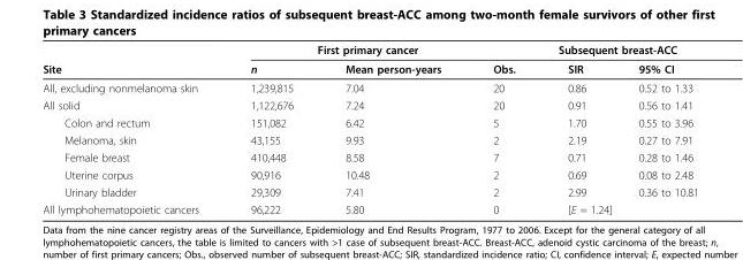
<table><thead><tr><td rowspan="2">Site</td><td colspan="2">First primary cancer</td><td colspan="3">Subsequent breast-ACC</td></tr><tr><td>n</td><td>Mean person-years</td><td>Obs.</td><td>SIR</td><td>95% CI</td></tr></thead><tbody><tr><td>All, excluding nonmelanoma skin</td><td>1,239,815</td><td>7.04</td><td>20</td><td>0.86</td><td>0.52 to 1.33</td></tr><tr><td>All solid</td><td>1,122,676</td><td>7.24</td><td>20</td><td>0.91</td><td>0.56 to 1.41</td></tr><tr><td>Colon and rectum</td><td>151,082</td><td>6.42</td><td>5</td><td>1.70</td><td>0.55 to 3.96</td></tr><tr><td>Melanoma, skin</td><td>43,155</td><td>9.93</td><td>2</td><td>2.19</td><td>0.27 to 7.91</td></tr><tr><td>Female breast</td><td>410,448</td><td>8.58</td><td>7</td><td>0.71</td><td>0.28 to 1.46</td></tr><tr><td>Uterine corpus</td><td>90,916</td><td>10.48</td><td>2</td><td>0.69</td><td>0.08 to 2.48</td></tr><tr><td>Urinary bladder</td><td>29,309</td><td>7.41</td><td>2</td><td>2.99</td><td>0.36 to 10.81</td></tr><tr><td>All lymphohematopoietic cancers</td><td>96,222</td><td>5.80</td><td>0</td><td colspan="2">[E = 1.24]</td></tr></tbody></table>